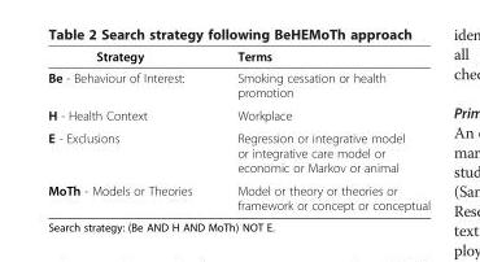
<table><thead><tr><td>Strategy</td><td>Terms</td></tr></thead><tbody><tr><td>Be - Behaviour of Interest:</td><td>Smoking cessation or health promotion</td></tr><tr><td>H - Health Context</td><td>Workplace</td></tr><tr><td>E - Exclusions</td><td>Regression or integrative model or integrative care model or economic or Markov or animal</td></tr><tr><td>MoTh - Models or Theories</td><td>Model or theory or theories or framework or concept or conceptual</td></tr></tbody></table>